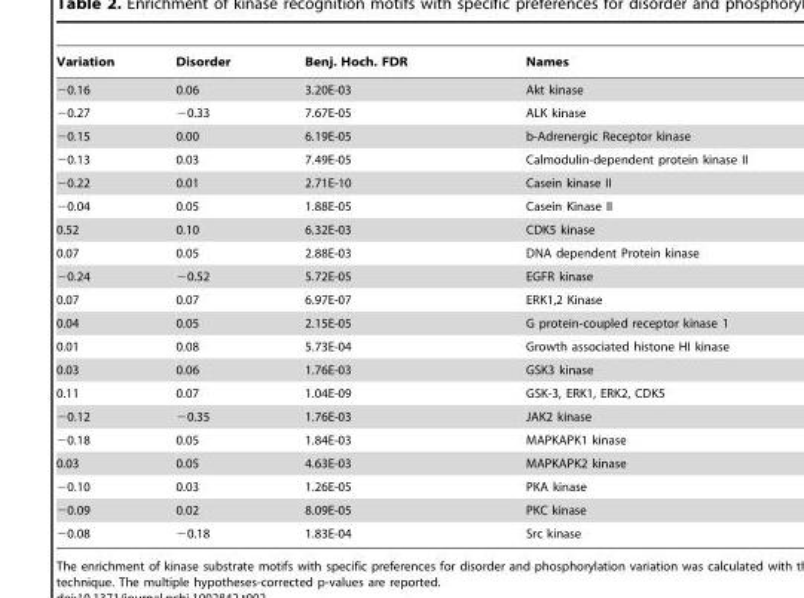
<table><thead><tr><td>Variation</td><td>Disorder</td><td>Benj. Hoch. FDR</td><td>Names</td></tr></thead><tbody><tr><td>−0.16</td><td>0.06</td><td>3.20E-03</td><td>Akt kinase</td></tr><tr><td>−0.27</td><td>−0.33</td><td>7.67E-05</td><td>ALK kinase</td></tr><tr><td>−0.15</td><td>0.00</td><td>6.19E-05</td><td>b-Adrenergic Receptor kinase</td></tr><tr><td>−0.13</td><td>0.03</td><td>7.49E-05</td><td>Calmodulin-dependent protein kinase II</td></tr><tr><td>−0.22</td><td>0.01</td><td>2.71E-10</td><td>Casein kinase II</td></tr><tr><td>−0.04</td><td>0.05</td><td>1.88E-05</td><td>Casein Kinase II</td></tr><tr><td>0.52</td><td>0.10</td><td>6.32E-03</td><td>CDK5 kinase</td></tr><tr><td>0.07</td><td>0.05</td><td>2.88E-03</td><td>DNA dependent Protein kinase</td></tr><tr><td>−0.24</td><td>−0.52</td><td>5.72E-05</td><td>EGFR kinase</td></tr><tr><td>0.07</td><td>0.07</td><td>6.97E-07</td><td>ERK1,2 Kinase</td></tr><tr><td>0.04</td><td>0.05</td><td>2.15E-05</td><td>G protein-coupled receptor kinase 1</td></tr><tr><td>0.01</td><td>0.08</td><td>5.73E-04</td><td>Growth associated histone HI kinase</td></tr><tr><td>0.03</td><td>0.06</td><td>1.76E-03</td><td>GSK3 kinase</td></tr><tr><td>0.11</td><td>0.07</td><td>1.04E-09</td><td>GSK-3, ERK1, ERK2, CDK5</td></tr><tr><td>−0.12</td><td>−0.35</td><td>1.76E-03</td><td>JAK2 kinase</td></tr><tr><td>−0.18</td><td>0.05</td><td>1.84E-03</td><td>MAPKAPK1 kinase</td></tr><tr><td>0.03</td><td>0.05</td><td>4.63E-03</td><td>MAPKAPK2 kinase</td></tr><tr><td>−0.10</td><td>0.03</td><td>1.26E-05</td><td>PKA kinase</td></tr><tr><td>−0.09</td><td>0.02</td><td>8.09E-05</td><td>PKC kinase</td></tr><tr><td>−0.08</td><td>−0.18</td><td>1.83E-04</td><td>Src kinase</td></tr></tbody></table>